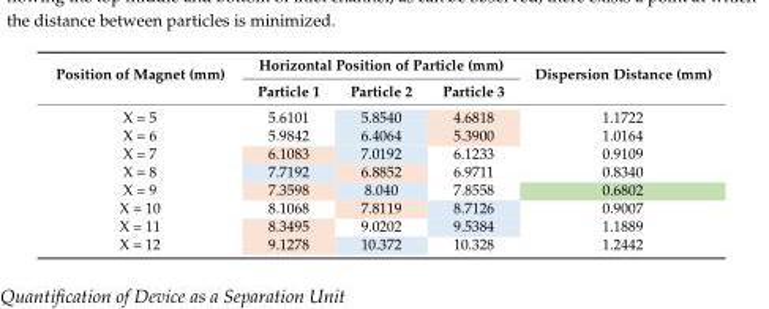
<table><thead><tr><td rowspan="2">Position of Magnet (mm)</td><td colspan="3">Horizontal Position of Particle (mm)</td><td rowspan="2">Dispersion Distance (mm)</td></tr><tr><td>Particle 1</td><td>Particle 2</td><td>Particle 3</td></tr></thead><tbody><tr><td>X = 5</td><td>5.6101</td><td>5.8540</td><td>4.6818</td><td>1.1722</td></tr><tr><td>X = 6</td><td>5.9842</td><td>6.4064</td><td>5.3900</td><td>1.0164</td></tr><tr><td>X = 7</td><td>6.1083</td><td>7.0192</td><td>6.1233</td><td>0.9109</td></tr><tr><td>X = 8</td><td>7.7192</td><td>6.8852</td><td>6.9711</td><td>0.8340</td></tr><tr><td>X = 9</td><td>7.3598</td><td>8.040</td><td>7.8558</td><td>0.6802</td></tr><tr><td>X = 10</td><td>8.1068</td><td>7.8119</td><td>8.7126</td><td>0.9007</td></tr><tr><td>X = 11</td><td>8.3495</td><td>9.0202</td><td>9.5384</td><td>1.1889</td></tr><tr><td>X = 12</td><td>9.1278</td><td>10.372</td><td>10.328</td><td>1.2442</td></tr></tbody></table>